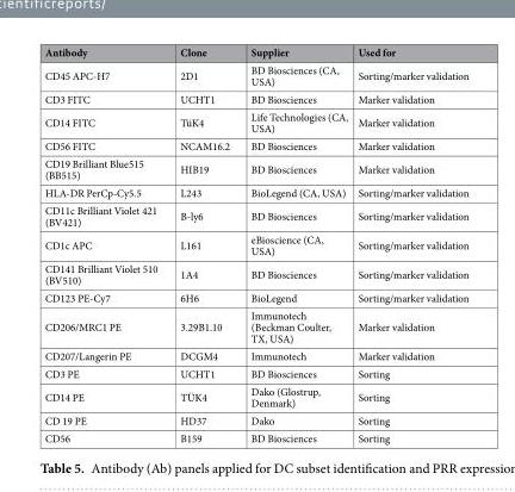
<table><thead><tr><td>Antibody</td><td>Clone</td><td>Supplier</td><td>Used for</td></tr></thead><tbody><tr><td>CD45 APC-H7</td><td>2D1</td><td>BD Biosciences (CA, USA)</td><td>Sorting/marker validation</td></tr><tr><td>CD3 FITC</td><td>UCHT1</td><td>BD Biosciences</td><td>Marker validation</td></tr><tr><td>CD14 FITC</td><td>TüK4</td><td>Life Technologies (CA, USA)</td><td>Marker validation</td></tr><tr><td>CD56 FITC</td><td>NCAM16.2</td><td>BD Biosciences</td><td>Marker validation</td></tr><tr><td>CD19 Brilliant Blue515 (BB515)</td><td>HIB19</td><td>BD Biosciences</td><td>Marker validation</td></tr><tr><td>HLA-DR PerCp-Cy5.5</td><td>L243</td><td>BioLegend (CA, USA)</td><td>Sorting/marker validation</td></tr><tr><td>CD11c Brilliant Violet 421 (BV421)</td><td>B-ly6</td><td>BD Biosciences</td><td>Sorting/marker validation</td></tr><tr><td>CD1c APC</td><td>L161</td><td>eBioscience (CA, USA)</td><td>Sorting/marker validation</td></tr><tr><td>CD141 Brilliant Violet 510 (BV510)</td><td>1A4</td><td>BD Biosciences</td><td>Sorting/marker validation</td></tr><tr><td>CD123 PE-Cy7</td><td>6H6</td><td>BioLegend</td><td>Sorting/marker validation</td></tr><tr><td>CD206/MRC1 PE</td><td>3.29B1.10</td><td>Immunotech (Beckman Coulter, TX, USA)</td><td>Marker validation</td></tr><tr><td>CD207/Langerin PE</td><td>DCGM4</td><td>Immunotech</td><td>Marker validation</td></tr><tr><td>CD3 PE</td><td>UCHT1</td><td>BD Biosciences</td><td>Sorting</td></tr><tr><td>CD14 PE</td><td>TÜK4</td><td>Dako (Glostrup, Denmark)</td><td>Sorting</td></tr><tr><td>CD 19 PE</td><td>HD37</td><td>Dako</td><td>Sorting</td></tr><tr><td>CD56</td><td>B159</td><td>BD Biosciences</td><td>Sorting</td></tr></tbody></table>